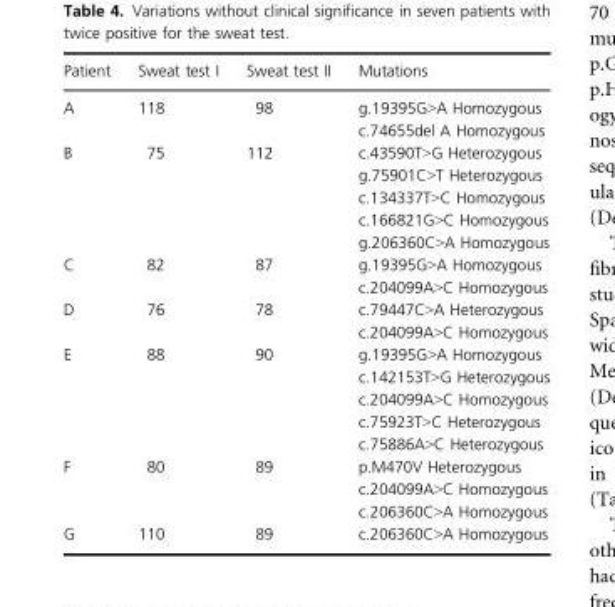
<table><thead><tr><td>Patient</td><td>Sweat test I</td><td>Sweat test II</td><td>Mutations</td></tr></thead><tbody><tr><td rowspan="2">A</td><td rowspan="2">118</td><td rowspan="2">98</td><td>g.19395G&gt;A Homozygous</td></tr><tr><td>c.74655del A Homozygous</td></tr><tr><td rowspan="5">B</td><td rowspan="5">75</td><td rowspan="5">112</td><td>c.43590T&gt;G Heterozygous</td></tr><tr><td>g.75901C&gt;T Heterozygous</td></tr><tr><td>c.134337T&gt;C Homozygous</td></tr><tr><td>c.166821G&gt;C Homozygous</td></tr><tr><td>g.206360C&gt;A Homozygous</td></tr><tr><td rowspan="2">C</td><td rowspan="2">82</td><td rowspan="2">87</td><td>g.19395G&gt;A Homozygous</td></tr><tr><td>c.204099A&gt;C Homozygous</td></tr><tr><td rowspan="2">D</td><td rowspan="2">76</td><td rowspan="2">78</td><td>c.79447C&gt;A Heterozygous</td></tr><tr><td>c.204099A&gt;C Homozygous</td></tr><tr><td rowspan="5">E</td><td rowspan="5">88</td><td rowspan="5">90</td><td>g.19395G&gt;A Homozygous</td></tr><tr><td>c.142153T&gt;G Heterozygous</td></tr><tr><td>c.204099A&gt;C Homozygous</td></tr><tr><td>c.75923T&gt;C Heterozygous</td></tr><tr><td>c.75886A&gt;C Heterozygous</td></tr><tr><td rowspan="3">F</td><td rowspan="3">80</td><td rowspan="3">89</td><td>p.M470V Heterozygous</td></tr><tr><td>c.204099A&gt;C Homozygous</td></tr><tr><td>c.206360C&gt;A Homozygous</td></tr><tr><td>G</td><td>110</td><td>89</td><td>c.206360C&gt;A Homozygous</td></tr></tbody></table>